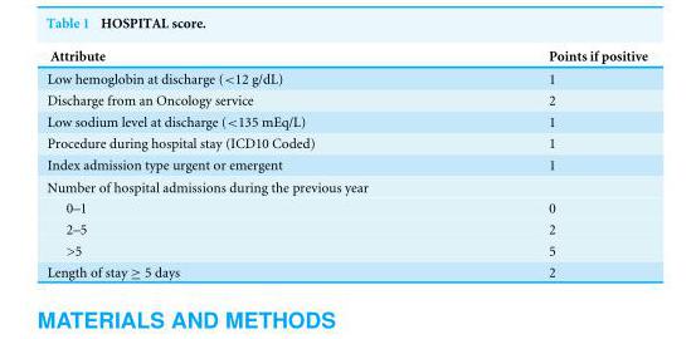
<table><thead><tr><td>Attribute</td><td>Points if positive</td></tr></thead><tbody><tr><td>Low hemoglobin at discharge (&lt;12 g/dL)</td><td>1</td></tr><tr><td>Discharge from an Oncology service</td><td>2</td></tr><tr><td>Low sodium level at discharge (&lt;135 mEq/L)</td><td>1</td></tr><tr><td>Procedure during hospital stay (ICD10 Coded)</td><td>1</td></tr><tr><td>Index admission type urgent or emergent</td><td>1</td></tr><tr><td colspan="2">Number of hospital admissions during the previous year</td></tr><tr><td>0–1</td><td>0</td></tr><tr><td>2–5</td><td>2</td></tr><tr><td>&gt;5</td><td>5</td></tr><tr><td>Length of stay ≥ 5 days</td><td>2</td></tr></tbody></table>